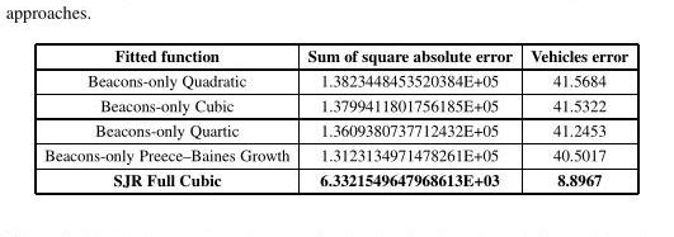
<table><thead><tr><td>Fitted function</td><td>Sum of square absolute error</td><td>Vehicles error</td></tr></thead><tbody><tr><td>Beacons-only Quadratic</td><td>1.3823448453520384E+05</td><td>41.5684</td></tr><tr><td>Beacons-only Cubic</td><td>1.3799411801756185E+05</td><td>41.5322</td></tr><tr><td>Beacons-only Quartic</td><td>1.3609380737712432E+05</td><td>41.2453</td></tr><tr><td>Beacons-only Preece–Baines Growth</td><td>1.3123134971478261E+05</td><td>40.5017</td></tr><tr><td>SJR Full Cubic</td><td>6.3321549647968613E+03</td><td>8.8967</td></tr></tbody></table>